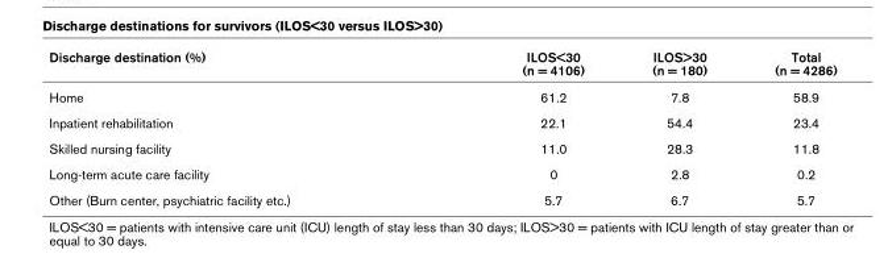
<table><thead><tr><td>Discharge destination (%)</td><td>ILOS&lt;30 (n = 4106)</td><td>ILOS&gt;30 (n = 180)</td><td>Total (n = 4286)</td></tr></thead><tbody><tr><td>Home</td><td>61.2</td><td>7.8</td><td>58.9</td></tr><tr><td>Inpatient rehabilitation</td><td>22.1</td><td>54.4</td><td>23.4</td></tr><tr><td>Skilled nursing facility</td><td>11.0</td><td>28.3</td><td>11.8</td></tr><tr><td>Long-term acute care facility</td><td>0</td><td>2.8</td><td>0.2</td></tr><tr><td>Other (Burn center, psychiatric facility etc.)</td><td>5.7</td><td>6.7</td><td>5.7</td></tr></tbody></table>